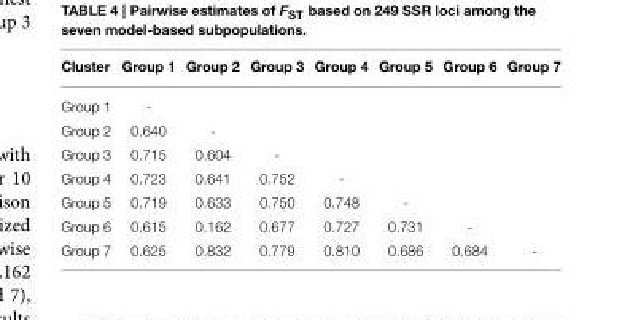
<table><thead><tr><td>Cluster</td><td>Group 1</td><td>Group 2</td><td>Group 3</td><td>Group 4</td><td>Group 5</td><td>Group 6</td><td>Group 7</td></tr></thead><tbody><tr><td>Group 1</td><td>-</td><td></td><td></td><td></td><td></td><td></td><td></td></tr><tr><td>Group 2</td><td>0.640</td><td>-</td><td></td><td></td><td></td><td></td><td></td></tr><tr><td>Group 3</td><td>0.715</td><td>0.604</td><td>-</td><td></td><td></td><td></td><td></td></tr><tr><td>Group 4</td><td>0.723</td><td>0.641</td><td>0.752</td><td>-</td><td></td><td></td><td></td></tr><tr><td>Group 5</td><td>0.719</td><td>0.633</td><td>0.750</td><td>0.748</td><td>-</td><td></td><td></td></tr><tr><td>Group 6</td><td>0.615</td><td>0.162</td><td>0.677</td><td>0.727</td><td>0.731</td><td>-</td><td></td></tr><tr><td>Group 7</td><td>0.625</td><td>0.832</td><td>0.779</td><td>0.810</td><td>0.686</td><td>0.684</td><td>-</td></tr></tbody></table>